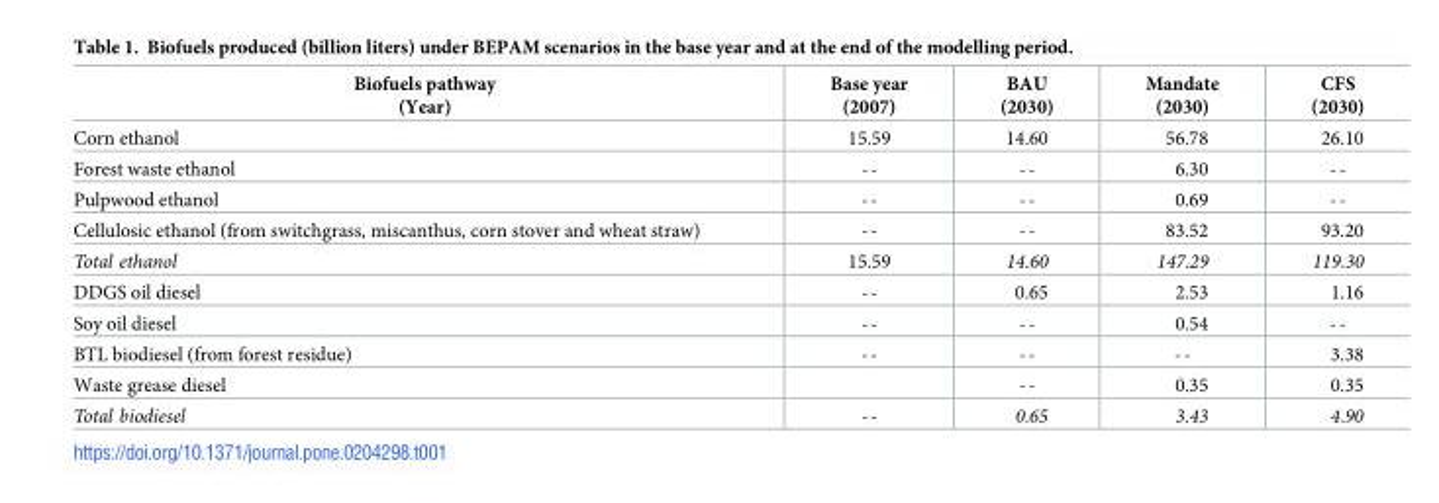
<table><thead><tr><td>Biofuels pathway (Year)</td><td>Base year (2007)</td><td>BAU (2030)</td><td>Mandate (2030)</td><td>CFS (2030)</td></tr></thead><tbody><tr><td>Corn ethanol</td><td>15.59</td><td>14.60</td><td>56.78</td><td>26.10</td></tr><tr><td>Forest waste ethanol</td><td>--</td><td>--</td><td>6.30</td><td>--</td></tr><tr><td>Pulpwood ethanol</td><td>--</td><td>--</td><td>0.69</td><td>--</td></tr><tr><td>Cellulosic ethanol (from switchgrass, miscanthus, corn stover and wheat straw)</td><td>--</td><td>--</td><td>83.52</td><td>93.20</td></tr><tr><td>Total ethanol</td><td>15.59</td><td>14.60</td><td>147.29</td><td>119.30</td></tr><tr><td>DDGS oil diesel</td><td>--</td><td>0.65</td><td>2.53</td><td>1.16</td></tr><tr><td>Soy oil diesel</td><td>--</td><td>--</td><td>0.54</td><td>--</td></tr><tr><td>BTL biodiesel (from forest residue)</td><td>--</td><td>--</td><td>--</td><td>3.38</td></tr><tr><td>Waste grease diesel</td><td></td><td>--</td><td>0.35</td><td>0.35</td></tr><tr><td>Total biodiesel</td><td>--</td><td>0.65</td><td>3.43</td><td>4.90</td></tr></tbody></table>